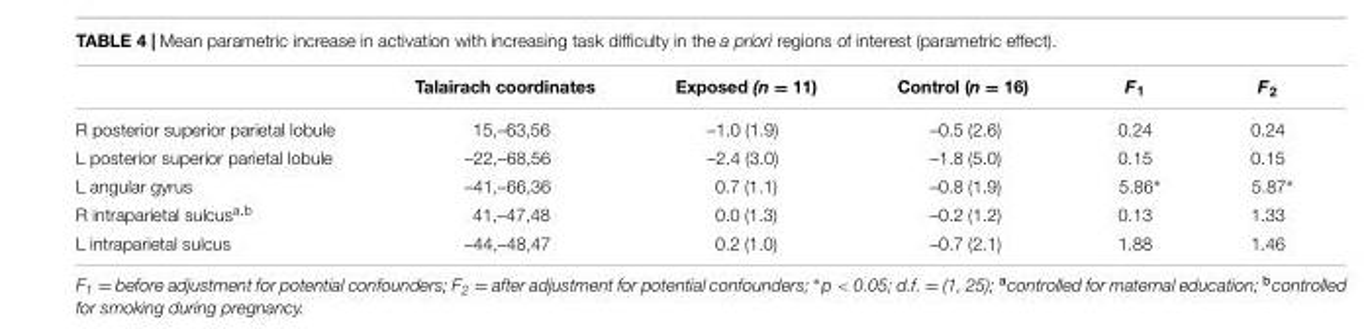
<table><thead><tr><td></td><td>Talairach coordinates</td><td>Exposed (n = 11)</td><td>Control (n = 16)</td><td>F<sub>1</sub></td><td>F<sub>2</sub></td></tr></thead><tbody><tr><td>R posterior superior parietal lobule</td><td>15,–63,56</td><td>–1.0 (1.9)</td><td>–0.5 (2.6)</td><td>0.24</td><td>0.24</td></tr><tr><td>L posterior superior parietal lobule</td><td>–22,–68,56</td><td>–2.4 (3.0)</td><td>–1.8 (5.0)</td><td>0.15</td><td>0.15</td></tr><tr><td>L angular gyrus</td><td>–41,–66,36</td><td>0.7 (1.1)</td><td>–0.8 (1.9)</td><td>5.86∗</td><td>5.87∗</td></tr><tr><td>R intraparietal sulcus<sup>a,b</sup></td><td>41,–47,48</td><td>0.0 (1.3)</td><td>–0.2 (1.2)</td><td>0.13</td><td>1.33</td></tr><tr><td>L intraparietal sulcus</td><td>–44,–48,47</td><td>0.2 (1.0)</td><td>–0.7 (2.1)</td><td>1.88</td><td>1.46</td></tr></tbody></table>